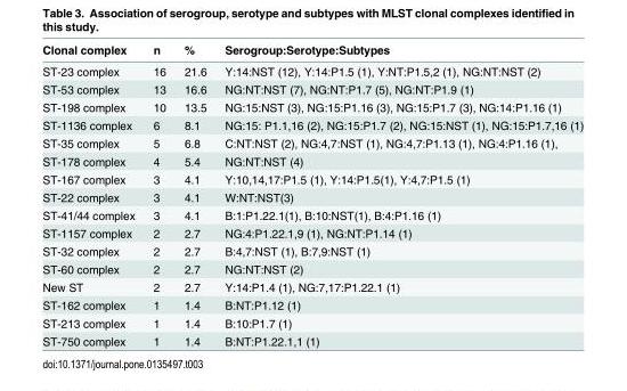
<table><thead><tr><td>Clonal complex</td><td>n</td><td>%</td><td>Serogroup:Serotype:Subtypes</td></tr></thead><tbody><tr><td>ST-23 complex</td><td>16</td><td>21.6</td><td>Y:14:NST (12), Y:14:P1.5 (1), Y:NT:P1.5,2 (1), NG:NT:NST (2)</td></tr><tr><td>ST-53 complex</td><td>13</td><td>16.6</td><td>NG:NT:NST (7), NG:NT:P1.7 (5), NG:NT:P1.9 (1)</td></tr><tr><td>ST-198 complex</td><td>10</td><td>13.5</td><td>NG:15:NST (3), NG:15:P1.16 (3), NG:15:P1.7 (3), NG:14:P1.16 (1)</td></tr><tr><td>ST-1136 complex</td><td>6</td><td>8.1</td><td>NG:15: P1.1,16 (2), NG:15:P1.7 (2), NG:15:NST (1), NG:15:P1.7,16 (1)</td></tr><tr><td>ST-35 complex</td><td>5</td><td>6.8</td><td>C:NT:NST (2), NG:4,7:NST (1), NG:4,7:P1.13 (1), NG:4:P1.16 (1),</td></tr><tr><td>ST-178 complex</td><td>4</td><td>5.4</td><td>NG:NT:NST (4)</td></tr><tr><td>ST-167 complex</td><td>3</td><td>4.1</td><td>Y:10,14,17:P1.5 (1), Y:14:P1.5(1), Y:4,7:P1.5 (1)</td></tr><tr><td>ST-22 complex</td><td>3</td><td>4.1</td><td>W:NT:NST(3)</td></tr><tr><td>ST-41/44 complex</td><td>3</td><td>4.1</td><td>B:1:P1.22.1(1), B:10:NST(1), B:4:P1.16 (1)</td></tr><tr><td>ST-1157 complex</td><td>2</td><td>2.7</td><td>NG:4:P1.22.1,9 (1), NG:NT:P1.14 (1)</td></tr><tr><td>ST-32 complex</td><td>2</td><td>2.7</td><td>B:4,7:NST (1), B:7,9:NST (1)</td></tr><tr><td>ST-60 complex</td><td>2</td><td>2.7</td><td>NG:NT:NST (2)</td></tr><tr><td>New ST</td><td>2</td><td>2.7</td><td>Y:14:P1.4 (1), NG:7,17:P1.22.1 (1)</td></tr><tr><td>ST-162 complex</td><td>1</td><td>1.4</td><td>B:NT:P1.12 (1)</td></tr><tr><td>ST-213 complex</td><td>1</td><td>1.4</td><td>B:10:P1.7 (1)</td></tr><tr><td>ST-750 complex</td><td>1</td><td>1.4</td><td>B:NT:P1.22.1,1 (1)</td></tr></tbody></table>